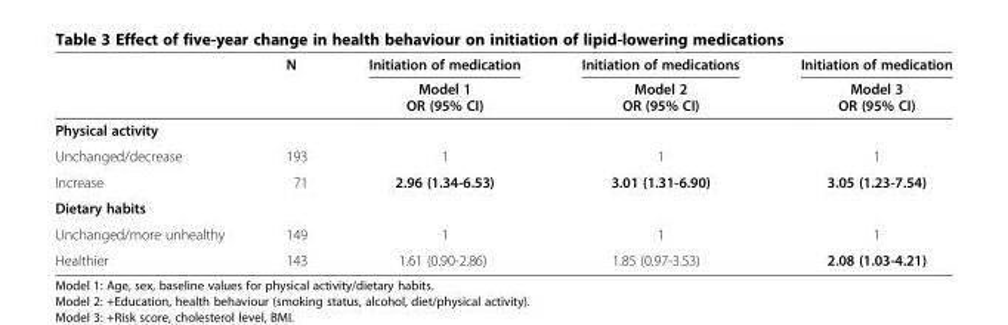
<table><thead><tr><td rowspan="2"></td><td rowspan="2">N</td><td rowspan="2">Initiation of medication Model 1 OR (95% CI)</td><td rowspan="2">Initiation of medications Model 2 OR (95% CI)</td><td rowspan="2">Initiation of medication Model 3 OR (95% CI)</td></tr><tr></tr></thead><tbody><tr><td colspan="5">Physical activity</td></tr><tr><td>Unchanged/decrease</td><td>193</td><td>1</td><td>1</td><td>1</td></tr><tr><td>Increase</td><td>71</td><td>2.96 (1.34-6.53)</td><td>3.01 (1.31-6.90)</td><td>3.05 (1.23-7.54)</td></tr><tr><td colspan="5">Dietary habits</td></tr><tr><td>Unchanged/more unhealthy</td><td>149</td><td>1</td><td>1</td><td>1</td></tr><tr><td>Healthier</td><td>143</td><td>1.61 (0.90-2.86)</td><td>1.85 (0.97-3.53)</td><td>2.08 (1.03-4.21)</td></tr></tbody></table>